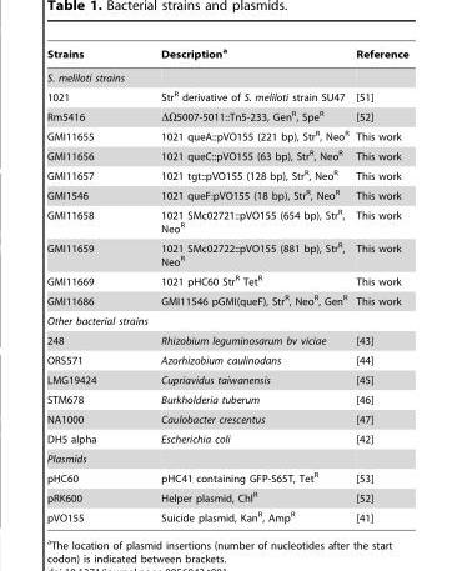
<table><thead><tr><td>Strains</td><td>Description<sup>a</sup></td><td>Reference</td></tr></thead><tbody><tr><td colspan="3">S. meliloti strains</td></tr><tr><td>1021</td><td>Str<sup>R</sup> derivative of S. meliloti strain SU47</td><td>[51]</td></tr><tr><td>Rm5416</td><td>ΔΩ5007-5011::Tn5-233, Gen<sup>R</sup>, Spe<sup>R</sup></td><td>[52]</td></tr><tr><td>GMI11655</td><td>1021 queA::pVO155 (221 bp), Str<sup>R</sup>, Neo<sup>R</sup></td><td>This work</td></tr><tr><td>GMI11656</td><td>1021 queC::pVO155 (63 bp), Str<sup>R</sup>, Neo<sup>R</sup></td><td>This work</td></tr><tr><td>GMI11657</td><td>1021 tgt::pVO155 (128 bp), Str<sup>R</sup>, Neo<sup>R</sup></td><td>This work</td></tr><tr><td>GMI1546</td><td>1021 queF:pVO155 (18 bp), Str<sup>R</sup>, Neo<sup>R</sup></td><td>This work</td></tr><tr><td>GMI11658</td><td>1021 SMc02721::pVO155 (654 bp), Str<sup>R</sup>, Neo<sup>R</sup></td><td>This work</td></tr><tr><td>GMI11659</td><td>1021 SMc02722::pVO155 (881 bp), Str<sup>R</sup>, Neo<sup>R</sup></td><td>This work</td></tr><tr><td>GMI11669</td><td>1021 pHC60 Str<sup>R</sup> Tet<sup>R</sup></td><td>This work</td></tr><tr><td>GMI11686</td><td>GMI11546 pGMI(queF), Str<sup>R</sup>, Neo<sup>R</sup>, Gen<sup>R</sup></td><td>This work</td></tr><tr><td colspan="3">Other bacterial strains</td></tr><tr><td>248</td><td>Rhizobium leguminosarum bv viciae</td><td>[43]</td></tr><tr><td>ORS571</td><td>Azorhizobium caulinodans</td><td>[44]</td></tr><tr><td>LMG19424</td><td>Cupriavidus taiwanensis</td><td>[45]</td></tr><tr><td>STM678</td><td>Burkholderia tuberum</td><td>[46]</td></tr><tr><td>NA1000</td><td>Caulobacter crescentus</td><td>[47]</td></tr><tr><td>DH5 alpha</td><td>Escherichia coli</td><td>[42]</td></tr><tr><td colspan="3">Plasmids</td></tr><tr><td>pHC60</td><td>pHC41 containing GFP-S65T, Tet<sup>R</sup></td><td>[53]</td></tr><tr><td>pRK600</td><td>Helper plasmid, Chl<sup>R</sup></td><td>[52]</td></tr><tr><td>pVO155</td><td>Suicide plasmid, Kan<sup>R</sup>, Amp<sup>R</sup></td><td>[41]</td></tr></tbody></table>